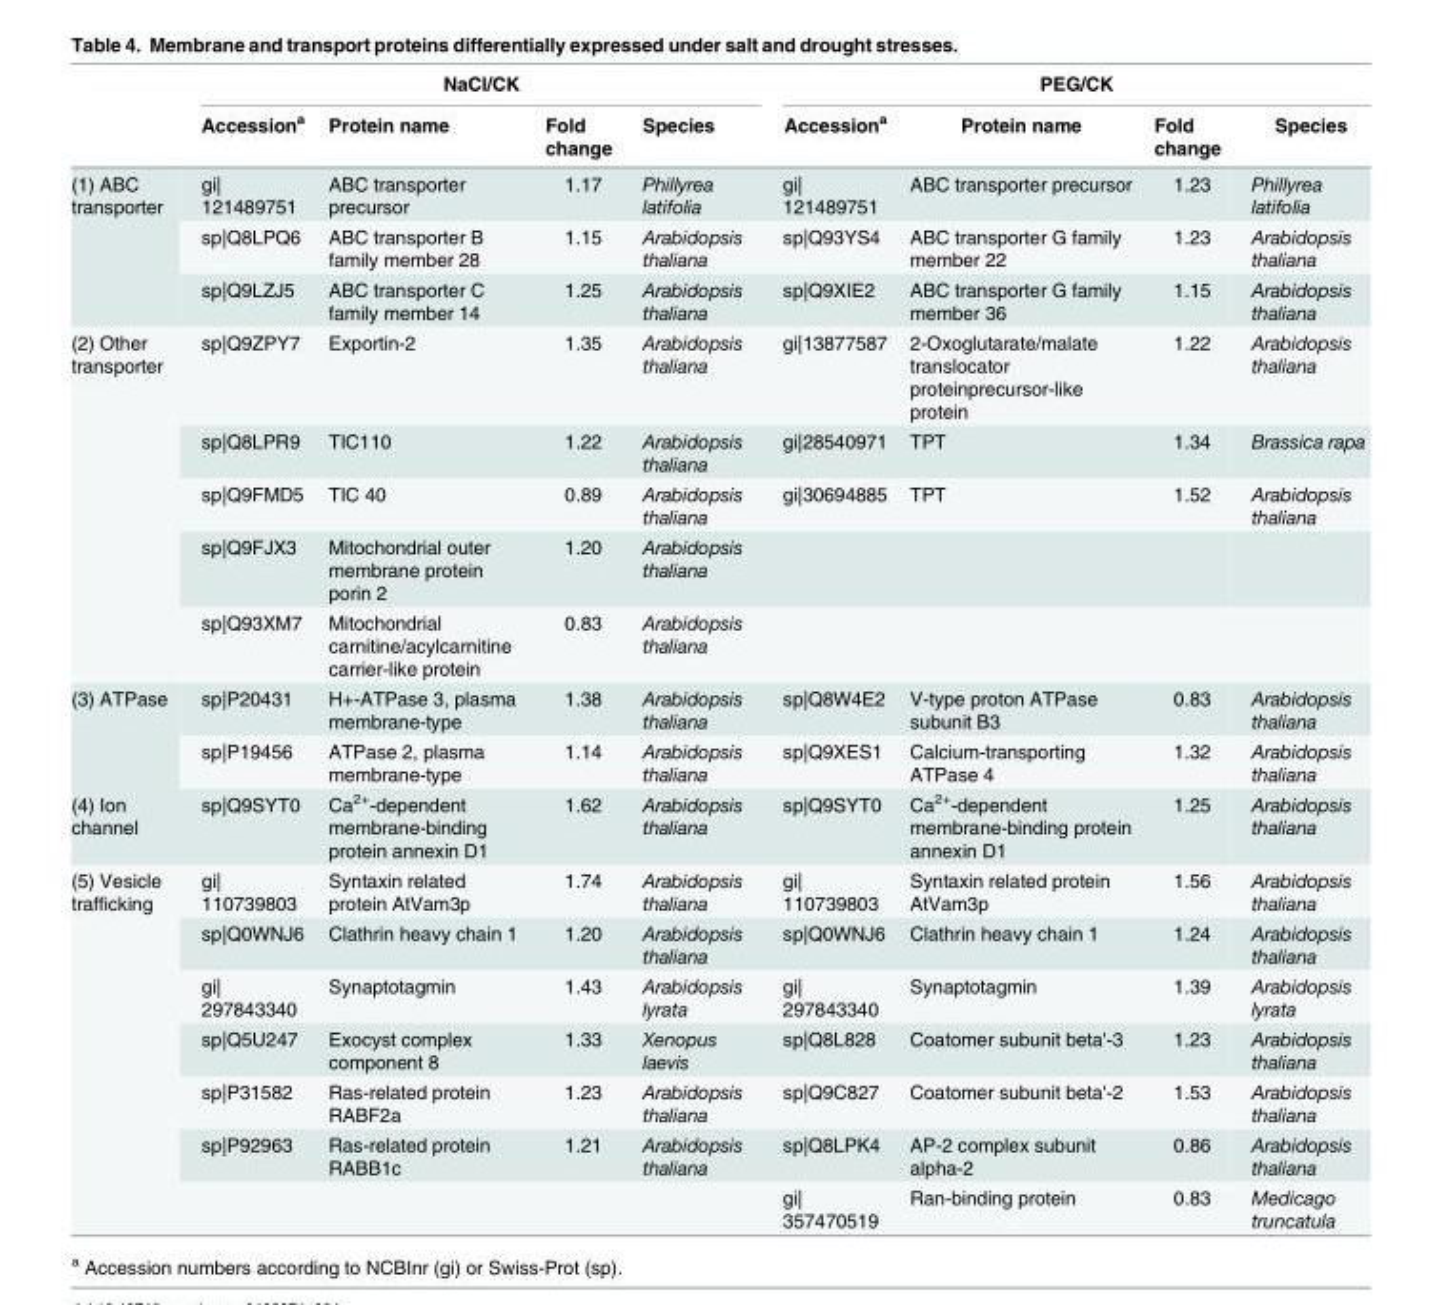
<table><thead><tr><td rowspan="2"></td><td colspan="4">NaCl/CK</td><td colspan="4">PEG/CK</td></tr><tr><td>Accession<sup>a</sup></td><td>Protein name</td><td>Fold change</td><td>Species</td><td>Accession<sup>a</sup></td><td>Protein name</td><td>Fold change</td><td>Species</td></tr></thead><tbody><tr><td rowspan="3">(1) ABC transporter</td><td>gi| 121489751</td><td>ABC transporter precursor</td><td>1.17</td><td>Phillyrea latifolia</td><td>gi| 121489751</td><td>ABC transporter precursor</td><td>1.23</td><td>Phillyrea latifolia</td></tr><tr><td>sp|Q8LPQ6</td><td>ABC transporter B family member 28</td><td>1.15</td><td>Arabidopsis thaliana</td><td>sp|Q93YS4</td><td>ABC transporter G family member 22</td><td>1.23</td><td>Arabidopsis thaliana</td></tr><tr><td>sp|Q9LZJ5</td><td>ABC transporter C family member 14</td><td>1.25</td><td>Arabidopsis thaliana</td><td>sp|Q9XIE2</td><td>ABC transporter G family member 36</td><td>1.15</td><td>Arabidopsis thaliana</td></tr><tr><td rowspan="5">(2) Other transporter</td><td>sp|Q9ZPY7</td><td>Exportin-2</td><td>1.35</td><td>Arabidopsis thaliana</td><td>gi|13877587</td><td>2-Oxoglutarate/malate translocator proteinprecursor-like protein</td><td>1.22</td><td>Arabidopsis thaliana</td></tr><tr><td>sp|Q8LPR9</td><td>TIC110</td><td>1.22</td><td>Arabidopsis thaliana</td><td>gi|28540971</td><td>TPT</td><td>1.34</td><td>Brassica rapa</td></tr><tr><td>sp|Q9FMD5</td><td>TIC 40</td><td>0.89</td><td>Arabidopsis thaliana</td><td>gi|30694885</td><td>TPT</td><td>1.52</td><td>Arabidopsis thaliana</td></tr><tr><td>sp|Q9FJX3</td><td>Mitochondrial outer membrane protein porin 2</td><td>1.20</td><td>Arabidopsis thaliana</td><td></td><td></td><td></td><td></td></tr><tr><td>sp|Q93XM7</td><td>Mitochondrial carnitine/acylcarnitine carrier-like protein</td><td>0.83</td><td>Arabidopsis thaliana</td><td></td><td></td><td></td><td></td></tr><tr><td rowspan="2">(3) ATPase</td><td>sp|P20431</td><td>H+-ATPase 3, plasma membrane-type</td><td>1.38</td><td>Arabidopsis thaliana</td><td>sp|Q8W4E2</td><td>V-type proton ATPase subunit B3</td><td>0.83</td><td>Arabidopsis thaliana</td></tr><tr><td>sp|P19456</td><td>ATPase 2, plasma membrane-type</td><td>1.14</td><td>Arabidopsis thaliana</td><td>sp|Q9XES1</td><td>Calcium-transporting ATPase 4</td><td>1.32</td><td>Arabidopsis thaliana</td></tr><tr><td>(4) Ion channel</td><td>sp|Q9SYT0</td><td>Ca<sup>2+</sup>-dependent membrane-binding protein annexin D1</td><td>1.62</td><td>Arabidopsis thaliana</td><td>sp|Q9SYT0</td><td>Ca<sup>2+</sup>-dependent membrane-binding protein annexin D1</td><td>1.25</td><td>Arabidopsis thaliana</td></tr><tr><td rowspan="7">(5) Vesicle trafficking</td><td>gi| 110739803</td><td>Syntaxin related protein AtVam3p</td><td>1.74</td><td>Arabidopsis thaliana</td><td>gi| 110739803</td><td>Syntaxin related protein AtVam3p</td><td>1.56</td><td>Arabidopsis thaliana</td></tr><tr><td>sp|Q0WNJ6</td><td>Clathrin heavy chain 1</td><td>1.20</td><td>Arabidopsis thaliana</td><td>sp|Q0WNJ6</td><td>Clathrin heavy chain 1</td><td>1.24</td><td>Arabidopsis thaliana</td></tr><tr><td>gi| 297843340</td><td>Synaptotagmin</td><td>1.43</td><td>Arabidopsis lyrata</td><td>gi| 297843340</td><td>Synaptotagmin</td><td>1.39</td><td>Arabidopsis lyrata</td></tr><tr><td>sp|Q5U247</td><td>Exocyst complex component 8</td><td>1.33</td><td>Xenopus laevis</td><td>sp|Q8L828</td><td>Coatomer subunit beta&#x27;-3</td><td>1.23</td><td>Arabidopsis thaliana</td></tr><tr><td>sp|P31582</td><td>Ras-related protein RABF2a</td><td>1.23</td><td>Arabidopsis thaliana</td><td>sp|Q9C827</td><td>Coatomer subunit beta&#x27;-2</td><td>1.53</td><td>Arabidopsis thaliana</td></tr><tr><td>sp|P92963</td><td>Ras-related protein RABB1c</td><td>1.21</td><td>Arabidopsis thaliana</td><td>sp|Q8LPK4</td><td>AP-2 complex subunit alpha-2</td><td>0.86</td><td>Arabidopsis thaliana</td></tr><tr><td></td><td></td><td></td><td></td><td>gi| 357470519</td><td>Ran-binding protein</td><td>0.83</td><td>Medicago truncatula</td></tr></tbody></table>